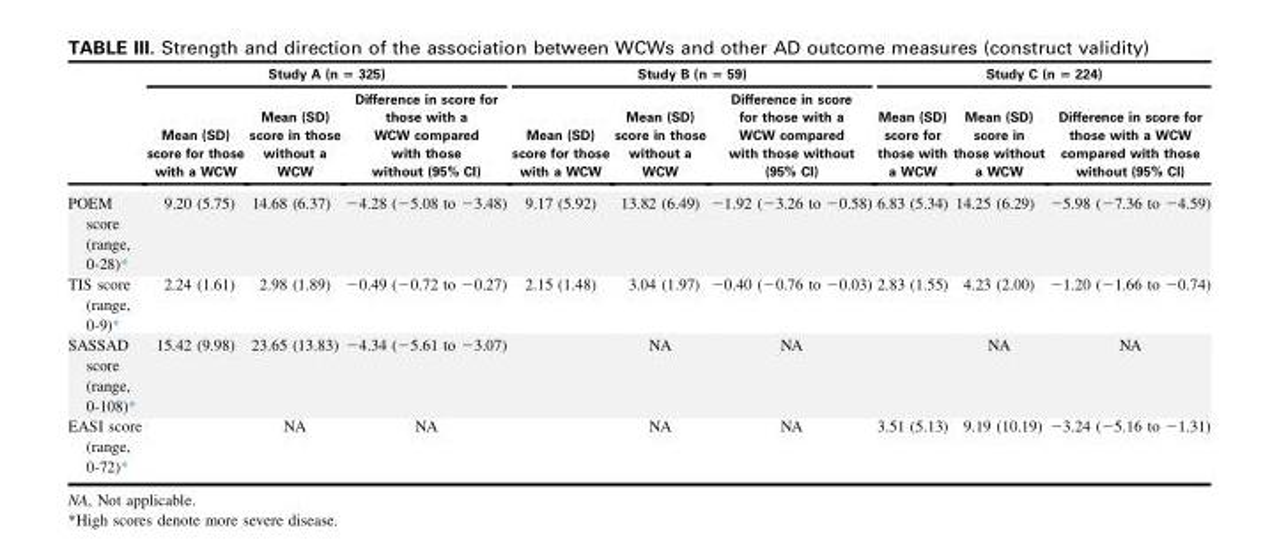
<table><thead><tr><td rowspan="2"></td><td colspan="3">Study A (n = 325)</td><td colspan="3">Study B (n = 59)</td><td colspan="3">Study C (n = 224)</td></tr><tr><td>Mean (SD) score for those with a WCW</td><td>Mean (SD) score in those without a WCW</td><td>Difference in score for those with a WCW compared with those without (95% CI)</td><td>Mean (SD) score for those with a WCW</td><td>Mean (SD) score in those without a WCW</td><td>Difference in score for those with a WCW compared with those without (95% CI)</td><td>Mean (SD) score for those with a WCW</td><td>Mean (SD) score in those without a WCW</td><td>Difference in score for those with a WCW compared with those without (95% CI)</td></tr></thead><tbody><tr><td>POEM score (range, 0-28)*</td><td>9.20 (5.75)</td><td>14.68 (6.37)</td><td>−4.28 (−5.08 to −3.48)</td><td>9.17 (5.92)</td><td>13.82 (6.49)</td><td>−1.92 (−3.26 to −0.58)</td><td>6.83 (5.34)</td><td>14.25 (6.29)</td><td>−5.98 (−7.36 to −4.59)</td></tr><tr><td>TIS score (range, 0-9)*</td><td>2.24 (1.61)</td><td>2.98 (1.89)</td><td>−0.49 (−0.72 to −0.27)</td><td>2.15 (1.48)</td><td>3.04 (1.97)</td><td>−0.40 (−0.76 to −0.03)</td><td>2.83 (1.55)</td><td>4.23 (2.00)</td><td>−1.20 (−1.66 to −0.74)</td></tr><tr><td>SASSAD score (range, 0-108)*</td><td>15.42 (9.98)</td><td>23.65 (13.83)</td><td>−4.34 (−5.61 to −3.07)</td><td></td><td>NA</td><td>NA</td><td></td><td>NA</td><td>NA</td></tr><tr><td>EASI score (range, 0-72)*</td><td></td><td>NA</td><td>NA</td><td></td><td>NA</td><td>NA</td><td>3.51 (5.13)</td><td>9.19 (10.19)</td><td>−3.24 (−5.16 to −1.31)</td></tr></tbody></table>